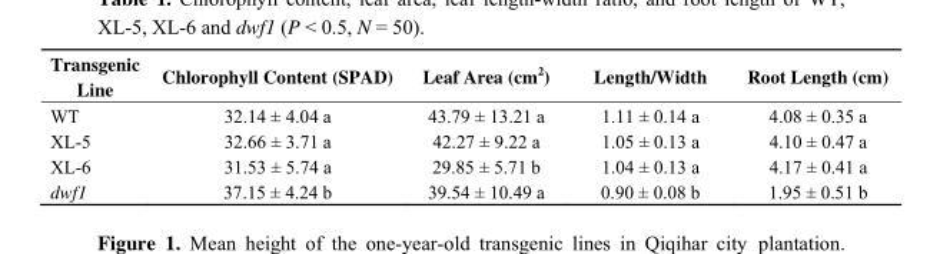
<table><thead><tr><td>Transgenic Line</td><td>Chlorophyll Content (SPAD)</td><td>Leaf Area (cm<sup>2</sup>)</td><td>Length/Width</td><td>Root Length (cm)</td></tr></thead><tbody><tr><td>WT</td><td>32.14 ± 4.04 a</td><td>43.79 ± 13.21 a</td><td>1.11 ± 0.14 a</td><td>4.08 ± 0.35 a</td></tr><tr><td>XL-5</td><td>32.66 ± 3.71 a</td><td>42.27 ± 9.22 a</td><td>1.05 ± 0.13 a</td><td>4.10 ± 0.47 a</td></tr><tr><td>XL-6</td><td>31.53 ± 5.74 a</td><td>29.85 ± 5.71 b</td><td>1.04 ± 0.13 a</td><td>4.17 ± 0.41 a</td></tr><tr><td>dwf1</td><td>37.15 ± 4.24 b</td><td>39.54 ± 10.49 a</td><td>0.90 ± 0.08 b</td><td>1.95 ± 0.51 b</td></tr></tbody></table>